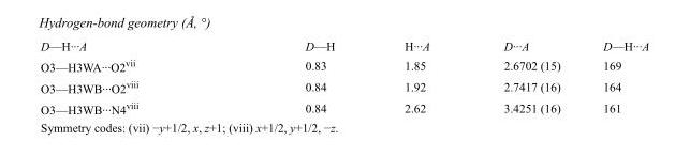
<table><tbody><tr><td>D—H···A</td><td>D—H</td><td>H···A</td><td>D···A</td><td>D—H···A</td></tr><tr><td>O3—H3WA···O2<sup>vii</sup></td><td>0.83</td><td>1.85</td><td>2.6702 (15)</td><td>169</td></tr><tr><td>O3—H3WB···O2<sup>viii</sup></td><td>0.84</td><td>1.92</td><td>2.7417 (16)</td><td>164</td></tr><tr><td>O3—H3WB···N4<sup>viii</sup></td><td>0.84</td><td>2.62</td><td>3.4251 (16)</td><td>161</td></tr></tbody></table>